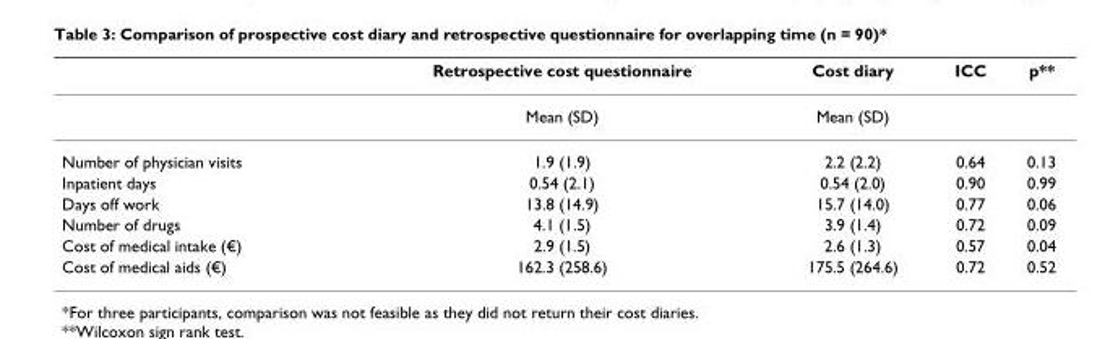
<table><thead><tr><td></td><td>Retrospective cost questionnaire</td><td>Cost diary</td><td>ICC</td><td>p**</td></tr></thead><tbody><tr><td></td><td>Mean (SD)</td><td>Mean (SD)</td><td></td><td></td></tr><tr><td>Number of physician visits</td><td>1.9 (1.9)</td><td>2.2 (2.2)</td><td>0.64</td><td>0.13</td></tr><tr><td>Inpatient days</td><td>0.54 (2.1)</td><td>0.54 (2.0)</td><td>0.90</td><td>0.99</td></tr><tr><td>Days off work</td><td>13.8 (14.9)</td><td>15.7 (14.0)</td><td>0.77</td><td>0.06</td></tr><tr><td>Number of drugs</td><td>4.1 (1.5)</td><td>3.9 (1.4)</td><td>0.72</td><td>0.09</td></tr><tr><td>Cost of medical intake (€)</td><td>2.9 (1.5)</td><td>2.6 (1.3)</td><td>0.57</td><td>0.04</td></tr><tr><td>Cost of medical aids (€)</td><td>162.3 (258.6)</td><td>175.5 (264.6)</td><td>0.72</td><td>0.52</td></tr></tbody></table>